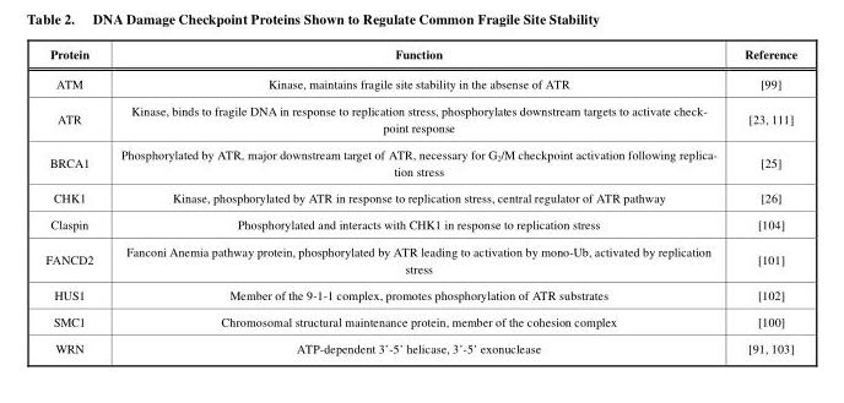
<table><thead><tr><td>Protein</td><td>Function</td><td>Reference</td></tr></thead><tbody><tr><td>ATM</td><td>Kinase, maintains fragile site stability in the absense of ATR</td><td>[99]</td></tr><tr><td>ATR</td><td>Kinase, binds to fragile DNA in response to replication stress, phosphorylates downstream targets to activate check- point response</td><td>[23, 111]</td></tr><tr><td>BRCA1</td><td>Phosphorylated by ATR, major downstream target of ATR, necessary for G2/M checkpoint activation following replica- tion stress</td><td>[25]</td></tr><tr><td>CHK1</td><td>Kinase, phosphorylated by ATR in response to replication stress, central regulator of ATR pathway</td><td>[26]</td></tr><tr><td>Claspin</td><td>Phosphorylated and interacts with CHK1 in response to replication stress</td><td>[104]</td></tr><tr><td>FANCD2</td><td>Fanconi Anemia pathway protein, phosphorylated by ATR leading to activation by mono-Ub, activated by replication stress</td><td>[101]</td></tr><tr><td>HUS1</td><td>Member of the 9-1-1 complex, promotes phosphorylation of ATR substrates</td><td>[102]</td></tr><tr><td>SMC1</td><td>Chromosomal structural maintenance protein, member of the cohesion complex</td><td>[100]</td></tr><tr><td>WRN</td><td>ATP-dependent 3’-5’ helicase, 3’-5’ exonuclease</td><td>[91, 103]</td></tr></tbody></table>